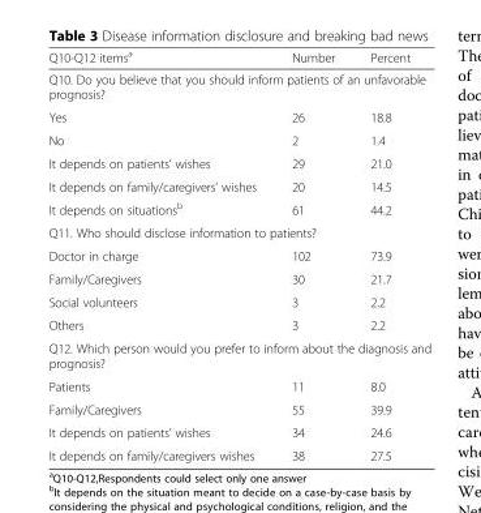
<table><thead><tr><td>Q10-Q12 items<sup>a</sup></td><td>Number</td><td>Percent</td></tr></thead><tbody><tr><td colspan="3">Q10. Do you believe that you should inform patients of an unfavorable prognosis?</td></tr><tr><td>Yes</td><td>26</td><td>18.8</td></tr><tr><td>No</td><td>2</td><td>1.4</td></tr><tr><td>It depends on patients’ wishes</td><td>29</td><td>21.0</td></tr><tr><td>It depends on family/caregivers’ wishes</td><td>20</td><td>14.5</td></tr><tr><td>It depends on situations<sup>b</sup></td><td>61</td><td>44.2</td></tr><tr><td colspan="3">Q11. Who should disclose information to patients?</td></tr><tr><td>Doctor in charge</td><td>102</td><td>73.9</td></tr><tr><td>Family/Caregivers</td><td>30</td><td>21.7</td></tr><tr><td>Social volunteers</td><td>3</td><td>2.2</td></tr><tr><td>Others</td><td>3</td><td>2.2</td></tr><tr><td colspan="3">Q12. Which person would you prefer to inform about the diagnosis and prognosis?</td></tr><tr><td>Patients</td><td>11</td><td>8.0</td></tr><tr><td>Family/Caregivers</td><td>55</td><td>39.9</td></tr><tr><td>It depends on patients’ wishes</td><td>34</td><td>24.6</td></tr><tr><td>It depends on family/caregivers wishes</td><td>38</td><td>27.5</td></tr></tbody></table>